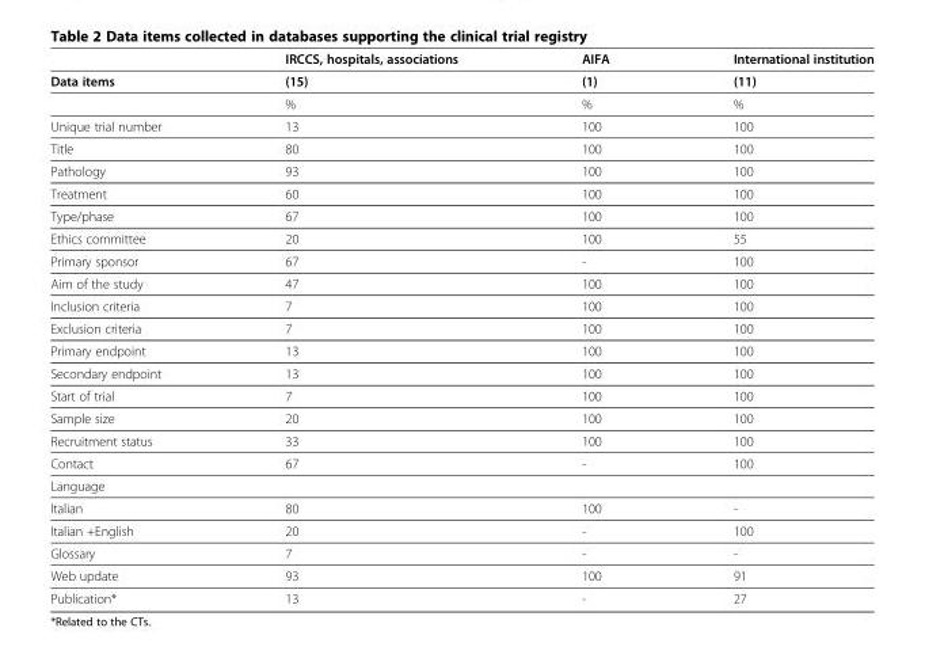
<table><thead><tr><td></td><td>IRCCS, hospitals, associations</td><td>AIFA</td><td>International institution</td></tr></thead><tbody><tr><td rowspan="2">Data items</td><td>(15)</td><td>(1)</td><td>(11)</td></tr><tr><td>%</td><td>%</td><td>%</td></tr><tr><td>Unique trial number</td><td>13</td><td>100</td><td>100</td></tr><tr><td>Title</td><td>80</td><td>100</td><td>100</td></tr><tr><td>Pathology</td><td>93</td><td>100</td><td>100</td></tr><tr><td>Treatment</td><td>60</td><td>100</td><td>100</td></tr><tr><td>Type/phase</td><td>67</td><td>100</td><td>100</td></tr><tr><td>Ethics committee</td><td>20</td><td>100</td><td>55</td></tr><tr><td>Primary sponsor</td><td>67</td><td>-</td><td>100</td></tr><tr><td>Aim of the study</td><td>47</td><td>100</td><td>100</td></tr><tr><td>Inclusion criteria</td><td>7</td><td>100</td><td>100</td></tr><tr><td>Exclusion criteria</td><td>7</td><td>100</td><td>100</td></tr><tr><td>Primary endpoint</td><td>13</td><td>100</td><td>100</td></tr><tr><td>Secondary endpoint</td><td>13</td><td>100</td><td>100</td></tr><tr><td>Start of trial</td><td>7</td><td>100</td><td>100</td></tr><tr><td>Sample size</td><td>20</td><td>100</td><td>100</td></tr><tr><td>Recruitment status</td><td>33</td><td>100</td><td>100</td></tr><tr><td>Contact</td><td>67</td><td>-</td><td>100</td></tr><tr><td colspan="4">Language</td></tr><tr><td>Italian</td><td>80</td><td>100</td><td>-</td></tr><tr><td>Italian +English</td><td>20</td><td>-</td><td>100</td></tr><tr><td>Glossary</td><td>7</td><td>-</td><td>-</td></tr><tr><td>Web update</td><td>93</td><td>100</td><td>91</td></tr><tr><td>Publication*</td><td>13</td><td>-</td><td>27</td></tr></tbody></table>